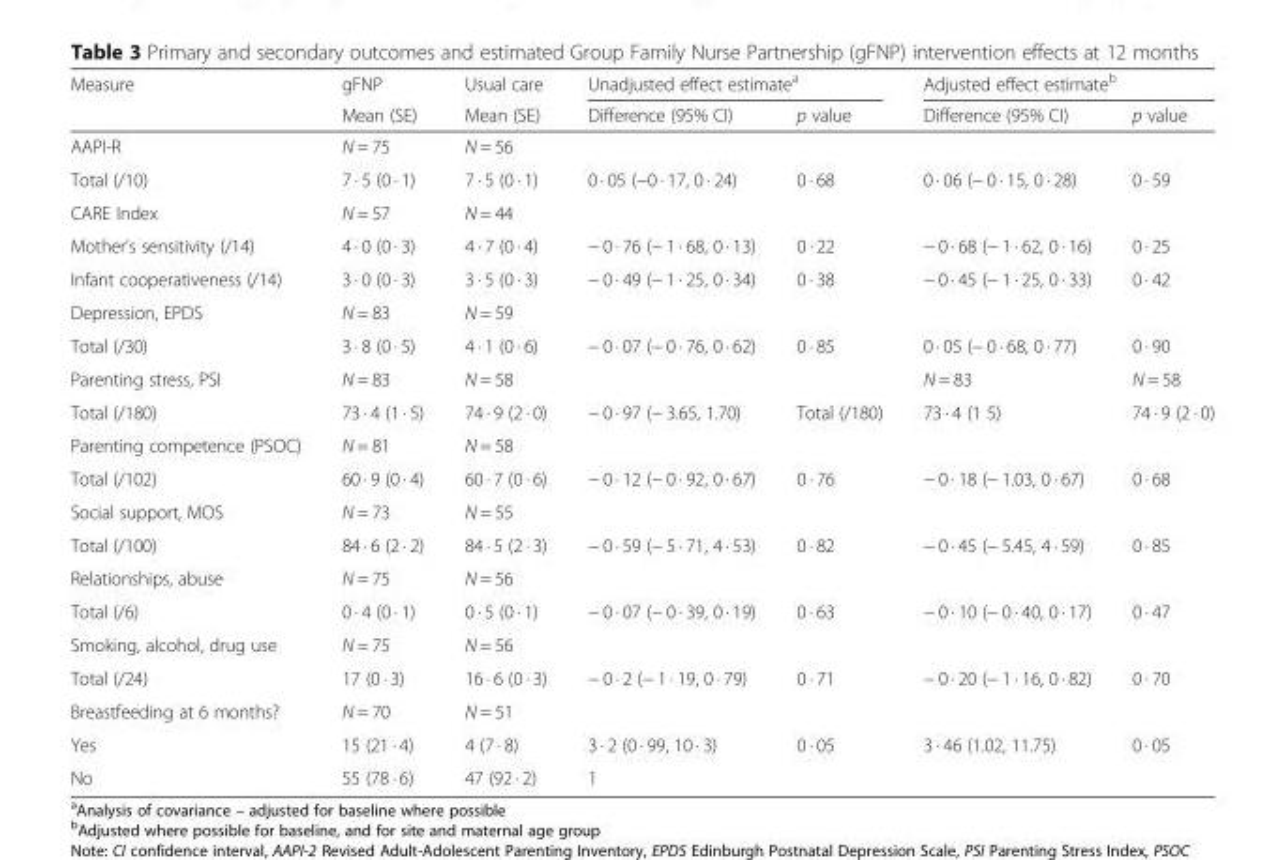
<table><thead><tr><td rowspan="2">Measure</td><td rowspan="2">gFNP Mean (SE)</td><td rowspan="2">Usual care Mean (SE)</td><td colspan="2">Unadjusted effect estimate<sup>a</sup></td><td colspan="2">Adjusted effect estimate<sup>b</sup></td></tr><tr><td>Difference (95% CI)</td><td>p value</td><td>Difference (95% CI)</td><td>p value</td></tr></thead><tbody><tr><td>AAPI-R</td><td>N = 75</td><td>N = 56</td><td colspan="4"></td></tr><tr><td>Total (/10)</td><td>7 · 5 (0 · 1)</td><td>7 · 5 (0 · 1)</td><td>0 · 05 (−0 · 17, 0 · 24)</td><td>0 · 68</td><td>0 · 06 (− 0 · 15, 0 · 28)</td><td>0 · 59</td></tr><tr><td>CARE Index</td><td>N = 57</td><td>N = 44</td><td colspan="4"></td></tr><tr><td>Mother’s sensitivity (/14)</td><td>4 · 0 (0 · 3)</td><td>4 · 7 (0 · 4)</td><td>− 0 · 76 (− 1 · 68, 0 · 13)</td><td>0 · 22</td><td>− 0 · 68 (− 1 · 62, 0 · 16)</td><td>0 · 25</td></tr><tr><td>Infant cooperativeness (/14)</td><td>3 · 0 (0 · 3)</td><td>3 · 5 (0 · 3)</td><td>− 0 · 49 (− 1 · 25, 0 · 34)</td><td>0 · 38</td><td>− 0 · 45 (− 1 · 25, 0 · 33)</td><td>0 · 42</td></tr><tr><td>Depression, EPDS</td><td>N = 83</td><td>N = 59</td><td colspan="4"></td></tr><tr><td>Total (/30)</td><td>3 · 8 (0 · 5)</td><td>4 · 1 (0 · 6)</td><td>− 0 · 07 (− 0 · 76, 0 · 62)</td><td>0 · 85</td><td>0 · 05 (− 0 · 68, 0 · 77)</td><td>0 · 90</td></tr><tr><td>Parenting stress, PSI</td><td>N = 83</td><td>N = 58</td><td></td><td></td><td>N = 83</td><td>N = 58</td></tr><tr><td>Total (/180)</td><td>73 · 4 (1 · 5)</td><td>74 · 9 (2 · 0)</td><td>− 0 · 97 (− 3.65, 1.70)</td><td>Total (/180)</td><td>73 · 4 (1 5)</td><td>74 · 9 (2 · 0)</td></tr><tr><td>Parenting competence (PSOC)</td><td>N = 81</td><td>N = 58</td><td colspan="4"></td></tr><tr><td>Total (/102)</td><td>60 · 9 (0 · 4)</td><td>60 · 7 (0 · 6)</td><td>− 0 · 12 (− 0 · 92, 0 · 67)</td><td>0 · 76</td><td>− 0 · 18 (− 1.03, 0 · 67)</td><td>0 · 68</td></tr><tr><td>Social support, MOS</td><td>N = 73</td><td>N = 55</td><td colspan="4"></td></tr><tr><td>Total (/100)</td><td>84 · 6 (2 · 2)</td><td>84 · 5 (2 · 3)</td><td>− 0 · 59 (− 5 · 71, 4 · 53)</td><td>0 · 82</td><td>− 0 · 45 (− 5.45, 4 · 59)</td><td>0 · 85</td></tr><tr><td>Relationships, abuse</td><td>N = 75</td><td>N = 56</td><td colspan="4"></td></tr><tr><td>Total (/6)</td><td>0 · 4 (0 · 1)</td><td>0 · 5 (0 · 1)</td><td>− 0 · 07 (− 0 · 39, 0 · 19)</td><td>0 · 63</td><td>− 0 · 10 (− 0 · 40, 0 · 17)</td><td>0 · 47</td></tr><tr><td>Smoking, alcohol, drug use</td><td>N = 75</td><td>N = 56</td><td colspan="4"></td></tr><tr><td>Total (/24)</td><td>17 (0 · 3)</td><td>16 · 6 (0 · 3)</td><td>− 0 · 2 (− 1 · 19, 0 · 79)</td><td>0 · 71</td><td>− 0 · 20 (− 1 · 16, 0 · 82)</td><td>0 · 70</td></tr><tr><td>Breastfeeding at 6 months?</td><td>N = 70</td><td>N = 51</td><td colspan="4"></td></tr><tr><td>Yes</td><td>15 (21 · 4)</td><td>4 (7 · 8)</td><td>3 · 2 (0 · 99, 10 · 3)</td><td>0 · 05</td><td>3 · 46 (1.02, 11.75)</td><td>0 · 05</td></tr><tr><td>No</td><td>55 (78 · 6)</td><td>47 (92 · 2)</td><td>1</td><td></td><td></td><td></td></tr></tbody></table>